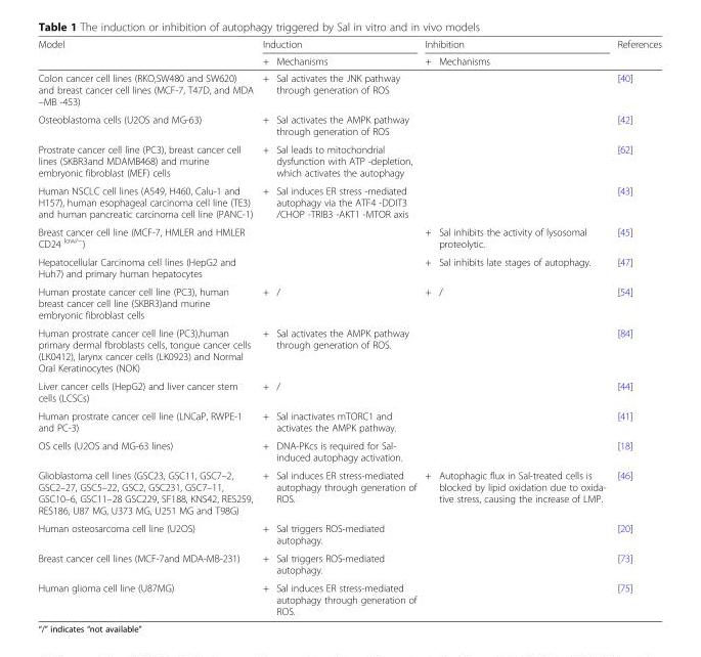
<table><thead><tr><td rowspan="2">Model</td><td colspan="2">Induction</td><td colspan="2">Inhibition</td><td rowspan="2">References</td></tr><tr><td>+</td><td>Mechanisms</td><td>+</td><td>Mechanisms</td></tr></thead><tbody><tr><td>Colon cancer cell lines (RKO,SW480 and SW620) and breast cancer cell lines (MCF-7, T47D, and MDA –MB -453)</td><td>+</td><td>Sal activates the JNK pathway through generation of ROS</td><td></td><td></td><td>[40]</td></tr><tr><td>Osteoblastoma cells (U2OS and MG-63)</td><td>+</td><td>Sal activates the AMPK pathway through generation of ROS</td><td></td><td></td><td>[42]</td></tr><tr><td>Prostrate cancer cell line (PC3), breast cancer cell lines (SKBR3and MDAMB468) and murine embryonic fibroblast (MEF) cells</td><td>+</td><td>Sal leads to mitochondrial dysfunction with ATP -depletion, which activates the autophagy</td><td></td><td></td><td>[62]</td></tr><tr><td>Human NSCLC cell lines (A549, H460, Calu-1 and H157), human esophageal carcinoma cell line (TE3) and human pancreatic carcinoma cell line (PANC-1)</td><td>+</td><td>Sal induces ER stress -mediated autophagy via the ATF4 -DDIT3 /CHOP -TRIB3 -AKT1 -MTOR axis</td><td></td><td></td><td>[43]</td></tr><tr><td>Breast cancer cell line (MCF-7, HMLER and HMLER CD24 <sup>low/−</sup>)</td><td></td><td></td><td>+</td><td>Sal inhibits the activity of lysosomal proteolytic.</td><td>[45]</td></tr><tr><td>Hepatocellular Carcinoma cell lines (HepG2 and Huh7) and primary human hepatocytes</td><td></td><td></td><td>+</td><td>Sal inhibits late stages of autophagy.</td><td>[47]</td></tr><tr><td>Human prostate cancer cell line (PC3), human breast cancer cell line (SKBR3)and murine embryonic fibroblast cells</td><td>+</td><td>/</td><td>+</td><td>/</td><td>[54]</td></tr><tr><td>Human prostrate cancer cell line (PC3),human primary dermal fbroblasts cells, tongue cancer cells (LK0412), larynx cancer cells (LK0923) and Normal Oral Keratinocytes (NOK)</td><td>+</td><td>Sal activates the AMPK pathway through generation of ROS.</td><td></td><td></td><td>[84]</td></tr><tr><td>Liver cancer cells (HepG2) and liver cancer stem cells (LCSCs)</td><td>+</td><td>/</td><td></td><td></td><td>[44]</td></tr><tr><td>Human prostrate cancer cell line (LNCaP, RWPE-1 and PC-3)</td><td>+</td><td>Sal inactivates mTORC1 and activates the AMPK pathway.</td><td></td><td></td><td>[41]</td></tr><tr><td>OS cells (U2OS and MG-63 lines)</td><td>+</td><td>DNA-PKcs is required for Sal- induced autophagy activation.</td><td></td><td></td><td>[18]</td></tr><tr><td>Glioblastoma cell lines (GSC23, GSC11, GSC7–2, GSC2–27, GSC5–22, GSC2, GSC231, GSC7–11, GSC10–6, GSC11–28 GSC229, SF188, KNS42, RES259, RES186, U87 MG, U373 MG, U251 MG and T98G)</td><td>+</td><td>Sal induces ER stress-mediated autophagy through generation of ROS.</td><td>+</td><td>Autophagic flux in Sal-treated cells is blocked by lipid oxidation due to oxida- tive stress, causing the increase of LMP.</td><td>[46]</td></tr><tr><td>Human osteosarcoma cell line (U2OS)</td><td>+</td><td>Sal triggers ROS-mediated autophagy.</td><td></td><td></td><td>[20]</td></tr><tr><td>Breast cancer cell lines (MCF-7and MDA-MB-231)</td><td>+</td><td>Sal triggers ROS-mediated autophagy.</td><td></td><td></td><td>[73]</td></tr><tr><td>Human glioma cell line (U87MG)</td><td>+</td><td>Sal induces ER stress-mediated autophagy through generation of ROS.</td><td></td><td></td><td>[75]</td></tr></tbody></table>